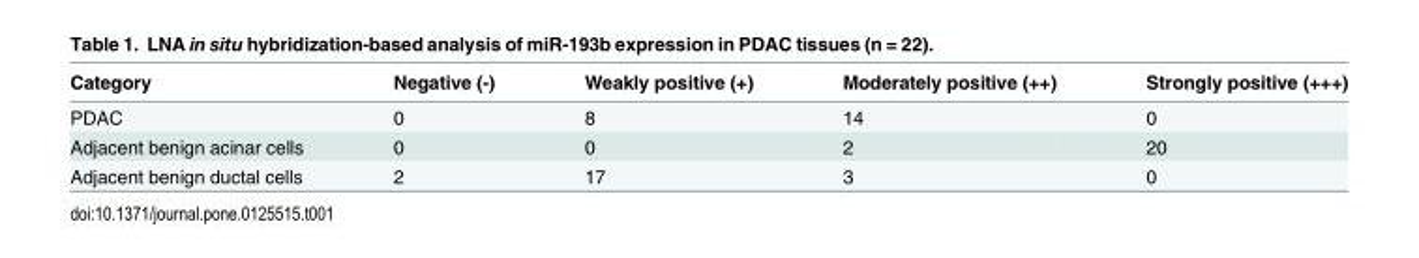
<table><thead><tr><td>Category</td><td>Negative (-)</td><td>Weakly positive (+)</td><td>Moderately positive (++)</td><td>Strongly positive (+++)</td></tr></thead><tbody><tr><td>PDAC</td><td>0</td><td>8</td><td>14</td><td>0</td></tr><tr><td>Adjacent benign acinar cells</td><td>0</td><td>0</td><td>2</td><td>20</td></tr><tr><td>Adjacent benign ductal cells</td><td>2</td><td>17</td><td>3</td><td>0</td></tr></tbody></table>